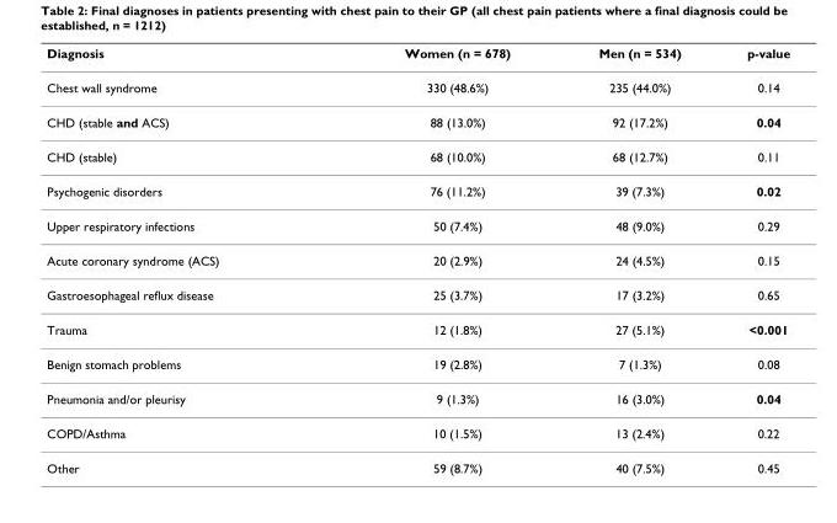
<table><thead><tr><td>Diagnosis</td><td>Women (n = 678)</td><td>Men (n = 534)</td><td>p-value</td></tr></thead><tbody><tr><td>Chest wall syndrome</td><td>330 (48.6%)</td><td>235 (44.0%)</td><td>0.14</td></tr><tr><td>CHD (stable and ACS)</td><td>88 (13.0%)</td><td>92 (17.2%)</td><td>0.04</td></tr><tr><td>CHD (stable)</td><td>68 (10.0%)</td><td>68 (12.7%)</td><td>0.11</td></tr><tr><td>Psychogenic disorders</td><td>76 (11.2%)</td><td>39 (7.3%)</td><td>0.02</td></tr><tr><td>Upper respiratory infections</td><td>50 (7.4%)</td><td>48 (9.0%)</td><td>0.29</td></tr><tr><td>Acute coronary syndrome (ACS)</td><td>20 (2.9%)</td><td>24 (4.5%)</td><td>0.15</td></tr><tr><td>Gastroesophageal reflux disease</td><td>25 (3.7%)</td><td>17 (3.2%)</td><td>0.65</td></tr><tr><td>Trauma</td><td>12 (1.8%)</td><td>27 (5.1%)</td><td>&lt;0.001</td></tr><tr><td>Benign stomach problems</td><td>19 (2.8%)</td><td>7 (1.3%)</td><td>0.08</td></tr><tr><td>Pneumonia and/or pleurisy</td><td>9 (1.3%)</td><td>16 (3.0%)</td><td>0.04</td></tr><tr><td>COPD/Asthma</td><td>10 (1.5%)</td><td>13 (2.4%)</td><td>0.22</td></tr><tr><td>Other</td><td>59 (8.7%)</td><td>40 (7.5%)</td><td>0.45</td></tr></tbody></table>